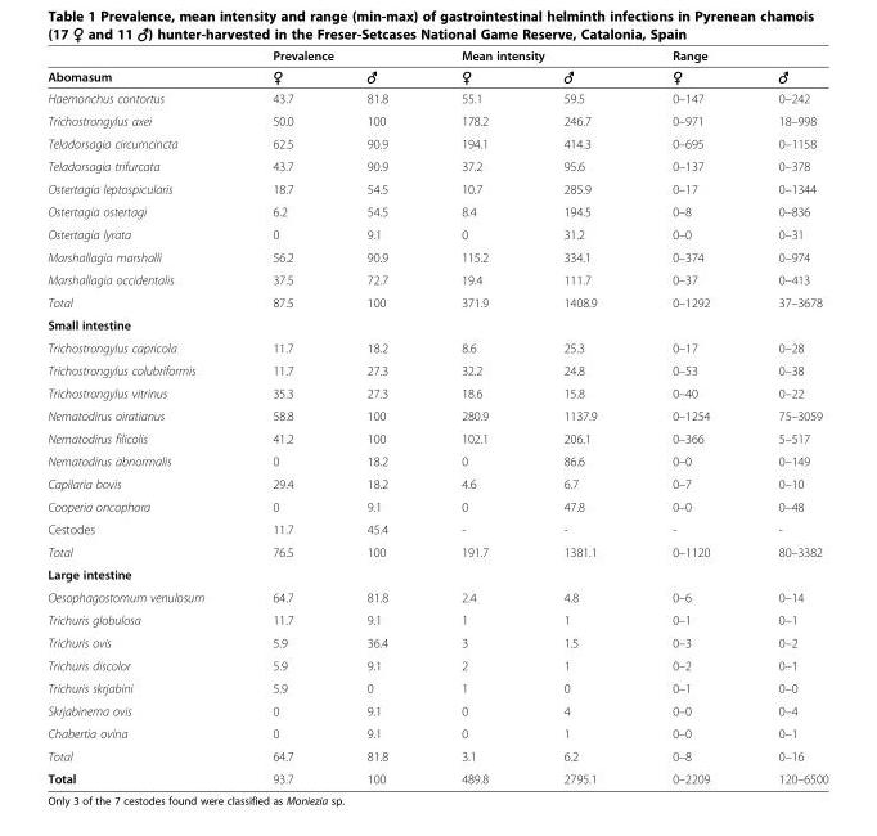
<table><thead><tr><td rowspan="2">Abomasum</td><td colspan="2">Prevalence</td><td colspan="2">Mean intensity</td><td colspan="2">Range</td></tr><tr><td>♀</td><td>♂</td><td>♀</td><td>♂</td><td>♀</td><td>♂</td></tr></thead><tbody><tr><td>Haemonchus contortus</td><td>43.7</td><td>81.8</td><td>55.1</td><td>59.5</td><td>0–147</td><td>0–242</td></tr><tr><td>Trichostrongylus axei</td><td>50.0</td><td>100</td><td>178.2</td><td>246.7</td><td>0–971</td><td>18–998</td></tr><tr><td>Teladorsagia circumcincta</td><td>62.5</td><td>90.9</td><td>194.1</td><td>414.3</td><td>0–695</td><td>0–1158</td></tr><tr><td>Teladorsagia trifurcata</td><td>43.7</td><td>90.9</td><td>37.2</td><td>95.6</td><td>0–137</td><td>0–378</td></tr><tr><td>Ostertagia leptospicularis</td><td>18.7</td><td>54.5</td><td>10.7</td><td>285.9</td><td>0–17</td><td>0–1344</td></tr><tr><td>Ostertagia ostertagi</td><td>6.2</td><td>54.5</td><td>8.4</td><td>194.5</td><td>0–8</td><td>0–836</td></tr><tr><td>Ostertagia lyrata</td><td>0</td><td>9.1</td><td>0</td><td>31.2</td><td>0–0</td><td>0–31</td></tr><tr><td>Marshallagia marshalli</td><td>56.2</td><td>90.9</td><td>115.2</td><td>334.1</td><td>0–374</td><td>0–974</td></tr><tr><td>Marshallagia occidentalis</td><td>37.5</td><td>72.7</td><td>19.4</td><td>111.7</td><td>0–37</td><td>0–413</td></tr><tr><td>Total</td><td>87.5</td><td>100</td><td>371.9</td><td>1408.9</td><td>0–1292</td><td>37–3678</td></tr><tr><td colspan="7">Small intestine</td></tr><tr><td>Trichostrongylus capricola</td><td>11.7</td><td>18.2</td><td>8.6</td><td>25.3</td><td>0–17</td><td>0–28</td></tr><tr><td>Trichostrongylus colubriformis</td><td>11.7</td><td>27.3</td><td>32.2</td><td>24.8</td><td>0–53</td><td>0–38</td></tr><tr><td>Trichostrongylus vitrinus</td><td>35.3</td><td>27.3</td><td>18.6</td><td>15.8</td><td>0–40</td><td>0–22</td></tr><tr><td>Nematodirus oiratianus</td><td>58.8</td><td>100</td><td>280.9</td><td>1137.9</td><td>0–1254</td><td>75–3059</td></tr><tr><td>Nematodirus filicolis</td><td>41.2</td><td>100</td><td>102.1</td><td>206.1</td><td>0–366</td><td>5–517</td></tr><tr><td>Nematodirus abnormalis</td><td>0</td><td>18.2</td><td>0</td><td>86.6</td><td>0–0</td><td>0–149</td></tr><tr><td>Capilaria bovis</td><td>29.4</td><td>18.2</td><td>4.6</td><td>6.7</td><td>0–7</td><td>0–10</td></tr><tr><td>Cooperia oncophora</td><td>0</td><td>9.1</td><td>0</td><td>47.8</td><td>0–0</td><td>0–48</td></tr><tr><td>Cestodes</td><td>11.7</td><td>45.4</td><td>-</td><td>-</td><td>-</td><td>-</td></tr><tr><td>Total</td><td>76.5</td><td>100</td><td>191.7</td><td>1381.1</td><td>0–1120</td><td>80–3382</td></tr><tr><td colspan="7">Large intestine</td></tr><tr><td>Oesophagostomum venulosum</td><td>64.7</td><td>81.8</td><td>2.4</td><td>4.8</td><td>0–6</td><td>0–14</td></tr><tr><td>Trichuris globulosa</td><td>11.7</td><td>9.1</td><td>1</td><td>1</td><td>0–1</td><td>0–1</td></tr><tr><td>Trichuris ovis</td><td>5.9</td><td>36.4</td><td>3</td><td>1.5</td><td>0–3</td><td>0–2</td></tr><tr><td>Trichuris discolor</td><td>5.9</td><td>9.1</td><td>2</td><td>1</td><td>0–2</td><td>0–1</td></tr><tr><td>Trichuris skrjabini</td><td>5.9</td><td>0</td><td>1</td><td>0</td><td>0–1</td><td>0–0</td></tr><tr><td>Skrjabinema ovis</td><td>0</td><td>9.1</td><td>0</td><td>4</td><td>0–0</td><td>0–4</td></tr><tr><td>Chabertia ovina</td><td>0</td><td>9.1</td><td>0</td><td>1</td><td>0–0</td><td>0–1</td></tr><tr><td>Total</td><td>64.7</td><td>81.8</td><td>3.1</td><td>6.2</td><td>0–8</td><td>0–16</td></tr><tr><td>Total</td><td>93.7</td><td>100</td><td>489.8</td><td>2795.1</td><td>0–2209</td><td>120–6500</td></tr></tbody></table>